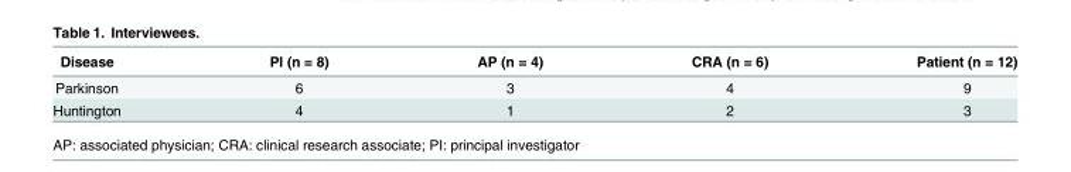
<table><thead><tr><td>Disease</td><td>PI (n = 8)</td><td>AP (n = 4)</td><td>CRA (n = 6)</td><td>Patient (n = 12)</td></tr></thead><tbody><tr><td>Parkinson</td><td>6</td><td>3</td><td>4</td><td>9</td></tr><tr><td>Huntington</td><td>4</td><td>1</td><td>2</td><td>3</td></tr></tbody></table>